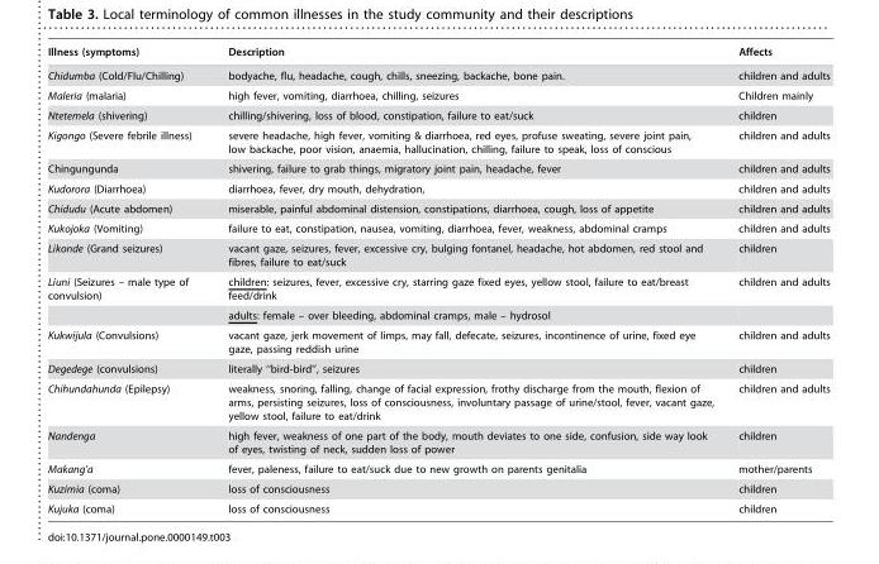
<table><thead><tr><td>Illness (symptoms)</td><td>Description</td><td>Affects</td></tr></thead><tbody><tr><td>Chidumba (Cold/Flu/Chilling)</td><td>bodyache, flu, headache, cough, chills, sneezing, backache, bone pain.</td><td>children and adults</td></tr><tr><td>Maleria (malaria)</td><td>high fever, vomiting, diarrhoea, chilling, seizures</td><td>Children mainly</td></tr><tr><td>Ntetemela (shivering)</td><td>chilling/shivering, loss of blood, constipation, failure to eat/suck</td><td>children</td></tr><tr><td>Kigongo (Severe febrile illness)</td><td>severe headache, high fever, vomiting &amp; diarrhoea, red eyes, profuse sweating, severe joint pain, low backache, poor vision, anaemia, hallucination, chilling, failure to speak, loss of conscious</td><td>children and adults</td></tr><tr><td>Chingungunda</td><td>shivering, failure to grab things, migratory joint pain, headache, fever</td><td>children and adults</td></tr><tr><td>Kudorora (Diarrhoea)</td><td>diarrhoea, fever, dry mouth, dehydration,</td><td>children and adults</td></tr><tr><td>Chidudu (Acute abdomen)</td><td>miserable, painful abdominal distension, constipations, diarrhoea, cough, loss of appetite</td><td>children and adults</td></tr><tr><td>Kukojoka (Vomiting)</td><td>failure to eat, constipation, nausea, vomiting, diarrhoea, fever, weakness, abdominal cramps</td><td>children and adults</td></tr><tr><td>Likonde (Grand seizures)</td><td>vacant gaze, seizures, fever, excessive cry, bulging fontanel, headache, hot abdomen, red stool and fibres, failure to eat/suck</td><td>children</td></tr><tr><td rowspan="2">Liuni (Seizures – male type of convulsion)</td><td>children: seizures, fever, excessive cry, starring gaze fixed eyes, yellow stool, failure to eat/breast feed/drink</td><td>children and adults</td></tr><tr><td>adults: female – over bleeding, abdominal cramps, male – hydrosol</td><td></td></tr><tr><td>Kukwijula (Convulsions)</td><td>vacant gaze, jerk movement of limps, may fall, defecate, seizures, incontinence of urine, fixed eye gaze, passing reddish urine</td><td>children and adults</td></tr><tr><td>Degedege (convulsions)</td><td>literally ‘‘bird-bird’’, seizures</td><td>children</td></tr><tr><td>Chihundahunda (Epilepsy)</td><td>weakness, snoring, falling, change of facial expression, frothy discharge from the mouth, flexion of arms, persisting seizures, loss of consciousness, involuntary passage of urine/stool, fever, vacant gaze, yellow stool, failure to eat/drink</td><td>children and adults</td></tr><tr><td>Nandenga</td><td>high fever, weakness of one part of the body, mouth deviates to one side, confusion, side way look of eyes, twisting of neck, sudden loss of power</td><td>children</td></tr><tr><td>Makang’a</td><td>fever, paleness, failure to eat/suck due to new growth on parents genitalia</td><td>mother/parents</td></tr><tr><td>Kuzimia (coma)</td><td>loss of consciousness</td><td>children</td></tr><tr><td>Kujuka (coma)</td><td>loss of consciousness</td><td>children</td></tr></tbody></table>